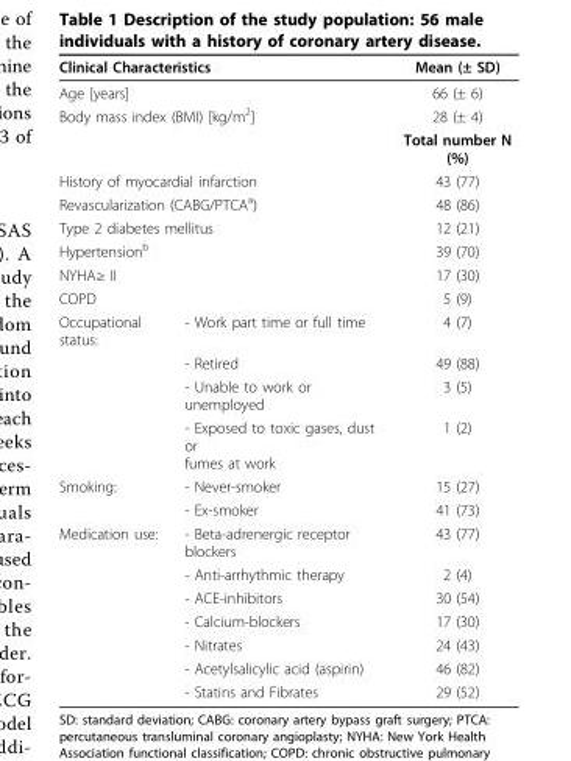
<table><thead><tr><td rowspan="3" colspan="2">Clinical Characteristics Age [years] Body mass index (BMI) [kg/m<sup>2</sup>]</td><td rowspan="4">Mean (± SD) 66 (± 6) 28 (± 4) Total number N (%)</td></tr><tr></tr><tr></tr><tr><td></td><td></td></tr></thead><tbody><tr><td colspan="2">History of myocardial infarction</td><td>43 (77)</td></tr><tr><td colspan="2">Revascularization (CABG/PTCA<sup>a</sup>)</td><td>48 (86)</td></tr><tr><td colspan="2">Type 2 diabetes mellitus</td><td>12 (21)</td></tr><tr><td colspan="2">Hypertension<sup>b</sup></td><td>39 (70)</td></tr><tr><td colspan="2">NYHA≥ II</td><td>17 (30)</td></tr><tr><td colspan="2">COPD</td><td>5 (9)</td></tr><tr><td rowspan="4">Occupational status:</td><td>- Work part time or full time</td><td>4 (7)</td></tr><tr><td>- Retired</td><td>49 (88)</td></tr><tr><td>- Unable to work or unemployed</td><td>3 (5)</td></tr><tr><td>- Exposed to toxic gases, dust or fumes at work</td><td>1 (2)</td></tr><tr><td rowspan="2">Smoking:</td><td>- Never-smoker</td><td>15 (27)</td></tr><tr><td>- Ex-smoker</td><td>41 (73)</td></tr><tr><td rowspan="7">Medication use:</td><td>- Beta-adrenergic receptor blockers</td><td>43 (77)</td></tr><tr><td>- Anti-arrhythmic therapy</td><td>2 (4)</td></tr><tr><td>- ACE-inhibitors</td><td>30 (54)</td></tr><tr><td>- Calcium-blockers</td><td>17 (30)</td></tr><tr><td>- Nitrates</td><td>24 (43)</td></tr><tr><td>- Acetylsalicylic acid (aspirin)</td><td>46 (82)</td></tr><tr><td>- Statins and Fibrates</td><td>29 (52)</td></tr></tbody></table>